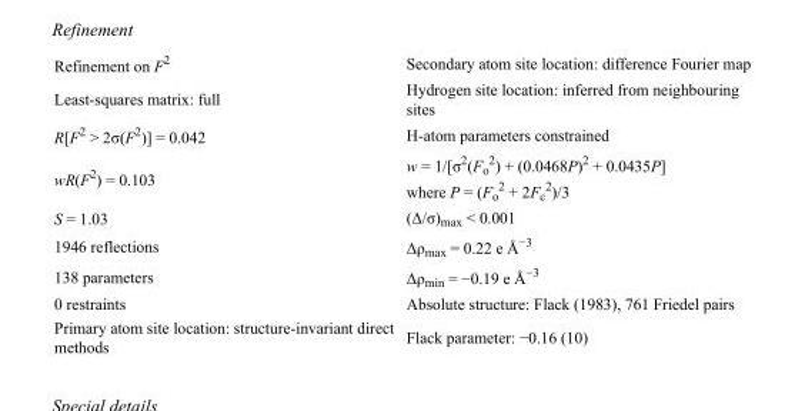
<table><tbody><tr><td>Refinement on F<sup>2</sup></td><td>Secondary atom site location: difference Fourier map</td></tr><tr><td>Least-squares matrix: full</td><td>Hydrogen site location: inferred from neighbouring sites</td></tr><tr><td>R[F<sup>2</sup> &gt; 2σ(F<sup>2</sup>)] = 0.042</td><td>H-atom parameters constrained</td></tr><tr><td>wR(F<sup>2</sup>) = 0.103</td><td>w = 1/[σ<sup>2</sup>(F<sub>o</sub> <sup>2</sup>) + (0.0468P)<sup>2</sup> + 0.0435P] where P = (F<sub>o</sub> <sup>2</sup> + 2F<sub>c</sub> <sup>2</sup>)/3</td></tr><tr><td>S = 1.03</td><td>(Δ/σ)<sub>max</sub> &lt; 0.001</td></tr><tr><td>1946 reflections</td><td>Δρ<sub>max</sub> = 0.22 e Å<sup>−3</sup></td></tr><tr><td>138 parameters</td><td>Δρ<sub>min</sub> = −0.19 e Å<sup>−3</sup></td></tr><tr><td>0 restraints</td><td>Absolute structure: Flack (1983), 761 Friedel pairs</td></tr><tr><td>Primary atom site location: structure-invariant direct methods</td><td>Flack parameter: −0.16 (10)</td></tr></tbody></table>